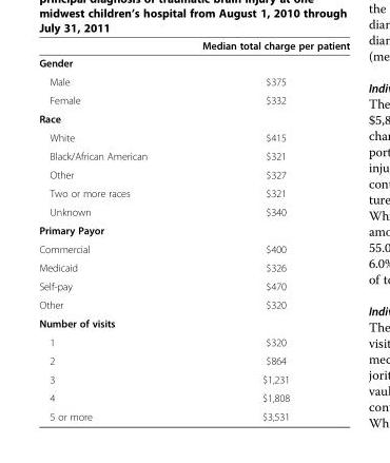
<table><thead><tr><td></td><td>Median total charge per patient</td></tr></thead><tbody><tr><td colspan="2">Gender</td></tr><tr><td>Male</td><td>$375</td></tr><tr><td>Female</td><td>$332</td></tr><tr><td colspan="2">Race</td></tr><tr><td>White</td><td>$415</td></tr><tr><td>Black/African American</td><td>$321</td></tr><tr><td>Other</td><td>$327</td></tr><tr><td>Two or more races</td><td>$321</td></tr><tr><td>Unknown</td><td>$340</td></tr><tr><td colspan="2">Primary Payor</td></tr><tr><td>Commercial</td><td>$400</td></tr><tr><td>Medicaid</td><td>$326</td></tr><tr><td>Self-pay</td><td>$470</td></tr><tr><td>Other</td><td>$320</td></tr><tr><td colspan="2">Number of visits</td></tr><tr><td>1</td><td>$320</td></tr><tr><td>2</td><td>$864</td></tr><tr><td>3</td><td>$1,231</td></tr><tr><td>4</td><td>$1,808</td></tr><tr><td>5 or more</td><td>$3,531</td></tr></tbody></table>